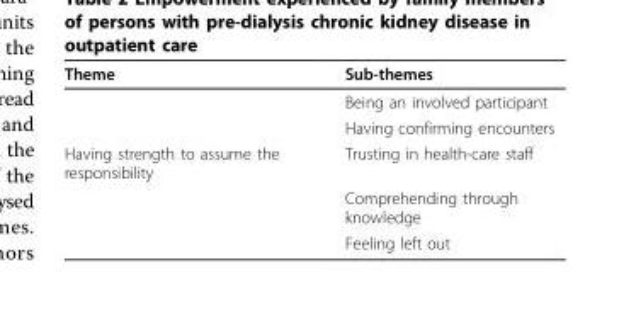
<table><thead><tr><td>Theme</td><td>Sub-themes</td></tr></thead><tbody><tr><td></td><td>Being an involved participant</td></tr><tr><td></td><td>Having confirming encounters</td></tr><tr><td rowspan="3">Having strength to assume the responsibility</td><td>Trusting in health-care staff</td></tr><tr><td>Comprehending through knowledge</td></tr><tr><td>Feeling left out</td></tr></tbody></table>